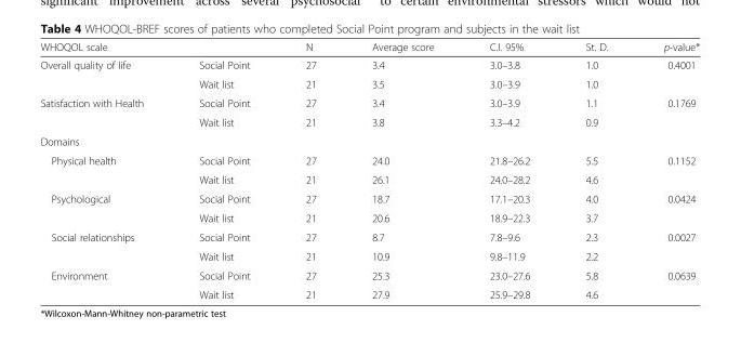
<table><thead><tr><td>WHOQOL scale</td><td></td><td>N</td><td>Average score</td><td>C.I. 95%</td><td>St. D.</td><td>p-value*</td></tr></thead><tbody><tr><td rowspan="2">Overall quality of life</td><td>Social Point</td><td>27</td><td>3.4</td><td>3.0–3.8</td><td>1.0</td><td rowspan="2">0.4001</td></tr><tr><td>Wait list</td><td>21</td><td>3.5</td><td>3.0–3.9</td><td>1.0</td></tr><tr><td rowspan="2">Satisfaction with Health</td><td>Social Point</td><td>27</td><td>3.4</td><td>3.0–3.9</td><td>1.1</td><td rowspan="2">0.1769</td></tr><tr><td>Wait list</td><td>21</td><td>3.8</td><td>3.3–4.2</td><td>0.9</td></tr><tr><td colspan="7">Domains</td></tr><tr><td rowspan="2">Physical health</td><td>Social Point</td><td>27</td><td>24.0</td><td>21.8–26.2</td><td>5.5</td><td rowspan="2">0.1152</td></tr><tr><td>Wait list</td><td>21</td><td>26.1</td><td>24.0–28.2</td><td>4.6</td></tr><tr><td rowspan="2">Psychological</td><td>Social Point</td><td>27</td><td>18.7</td><td>17.1–20.3</td><td>4.0</td><td rowspan="2">0.0424</td></tr><tr><td>Wait list</td><td>21</td><td>20.6</td><td>18.9–22.3</td><td>3.7</td></tr><tr><td rowspan="2">Social relationships</td><td>Social Point</td><td>27</td><td>8.7</td><td>7.8–9.6</td><td>2.3</td><td rowspan="2">0.0027</td></tr><tr><td>Wait list</td><td>21</td><td>10.9</td><td>9.8–11.9</td><td>2.2</td></tr><tr><td rowspan="2">Environment</td><td>Social Point</td><td>27</td><td>25.3</td><td>23.0–27.6</td><td>5.8</td><td rowspan="2">0.0639</td></tr><tr><td>Wait list</td><td>21</td><td>27.9</td><td>25.9–29.8</td><td>4.6</td></tr></tbody></table>